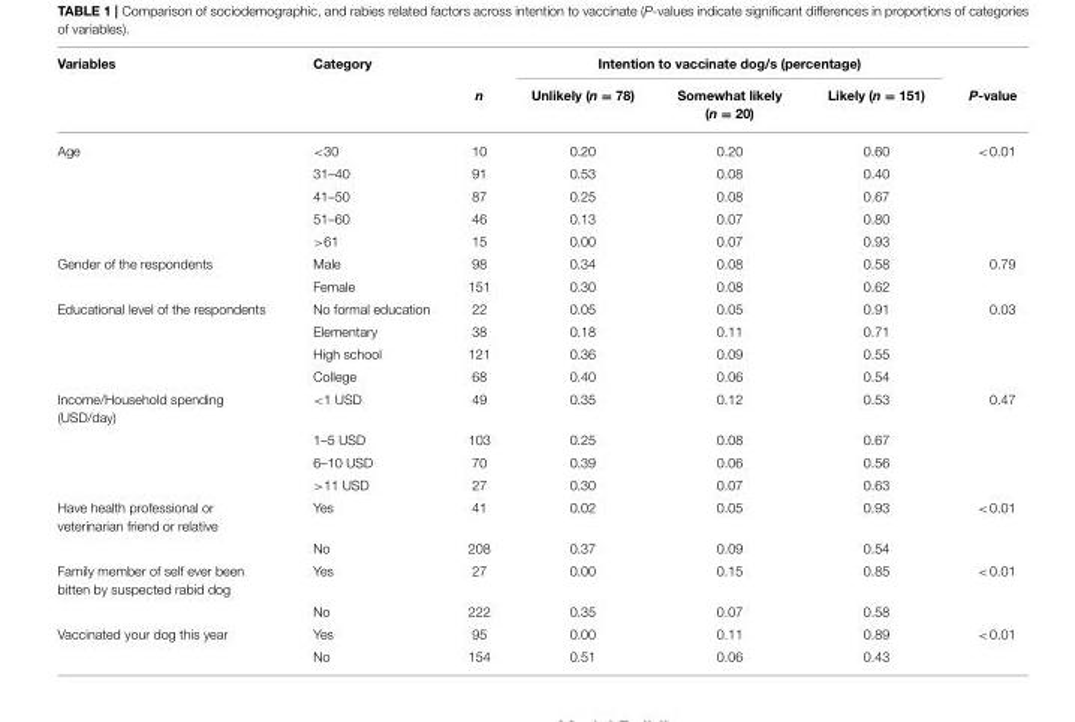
<table><thead><tr><td rowspan="2">Variables</td><td rowspan="2">Category</td><td rowspan="2">n</td><td colspan="3">Intention to vaccinate dog/s (percentage)</td><td rowspan="2">P-value</td></tr><tr><td>Unlikely (n = 78)</td><td>Somewhat likely (n = 20)</td><td>Likely (n = 151)</td></tr></thead><tbody><tr><td rowspan="5">Age</td><td>&lt;30</td><td>10</td><td>0.20</td><td>0.20</td><td>0.60</td><td>&lt;0.01</td></tr><tr><td>31–40</td><td>91</td><td>0.53</td><td>0.08</td><td>0.40</td><td></td></tr><tr><td>41–50</td><td>87</td><td>0.25</td><td>0.08</td><td>0.67</td><td></td></tr><tr><td>51–60</td><td>46</td><td>0.13</td><td>0.07</td><td>0.80</td><td></td></tr><tr><td>&gt;61</td><td>15</td><td>0.00</td><td>0.07</td><td>0.93</td><td></td></tr><tr><td rowspan="2">Gender of the respondents</td><td>Male</td><td>98</td><td>0.34</td><td>0.08</td><td>0.58</td><td>0.79</td></tr><tr><td>Female</td><td>151</td><td>0.30</td><td>0.08</td><td>0.62</td><td></td></tr><tr><td rowspan="4">Educational level of the respondents</td><td>No formal education</td><td>22</td><td>0.05</td><td>0.05</td><td>0.91</td><td>0.03</td></tr><tr><td>Elementary</td><td>38</td><td>0.18</td><td>0.11</td><td>0.71</td><td></td></tr><tr><td>High school</td><td>121</td><td>0.36</td><td>0.09</td><td>0.55</td><td></td></tr><tr><td>College</td><td>68</td><td>0.40</td><td>0.06</td><td>0.54</td><td></td></tr><tr><td rowspan="4">Income/Household spending (USD/day)</td><td>&lt;1 USD</td><td>49</td><td>0.35</td><td>0.12</td><td>0.53</td><td>0.47</td></tr><tr><td>1–5 USD</td><td>103</td><td>0.25</td><td>0.08</td><td>0.67</td><td></td></tr><tr><td>6–10 USD</td><td>70</td><td>0.39</td><td>0.06</td><td>0.56</td><td></td></tr><tr><td>&gt;11 USD</td><td>27</td><td>0.30</td><td>0.07</td><td>0.63</td><td></td></tr><tr><td rowspan="2">Have health professional or veterinarian friend or relative</td><td>Yes</td><td>41</td><td>0.02</td><td>0.05</td><td>0.93</td><td>&lt;0.01</td></tr><tr><td>No</td><td>208</td><td>0.37</td><td>0.09</td><td>0.54</td><td></td></tr><tr><td rowspan="2">Family member of self ever been bitten by suspected rabid dog</td><td>Yes</td><td>27</td><td>0.00</td><td>0.15</td><td>0.85</td><td>&lt;0.01</td></tr><tr><td>No</td><td>222</td><td>0.35</td><td>0.07</td><td>0.58</td><td></td></tr><tr><td rowspan="2">Vaccinated your dog this year</td><td>Yes</td><td>95</td><td>0.00</td><td>0.11</td><td>0.89</td><td>&lt;0.01</td></tr><tr><td>No</td><td>154</td><td>0.51</td><td>0.06</td><td>0.43</td><td></td></tr></tbody></table>